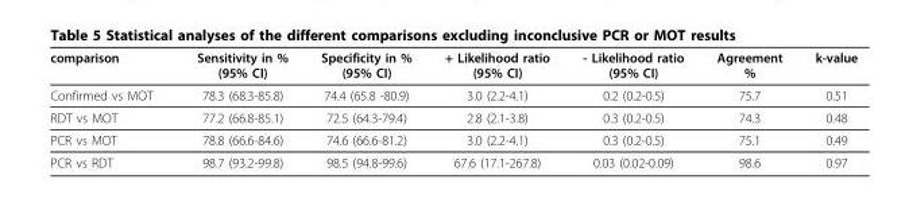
<table><thead><tr><td>comparison</td><td>Sensitivity in % (95% CI)</td><td>Specificity in % (95% CI)</td><td>+ Likelihood ratio (95% CI)</td><td>- Likelihood ratio (95% CI)</td><td>Agreement %</td><td>k-value</td></tr></thead><tbody><tr><td>Confirmed vs MOT</td><td>78.3 (68.3-85.8)</td><td>74.4 (65.8 -80.9)</td><td>3.0 (2.2-4.1)</td><td>0.2 (0.2-0.5)</td><td>75.7</td><td>0.51</td></tr><tr><td>RDT vs MOT</td><td>77.2 (66.8-85.1)</td><td>72.5 (64.3-79.4)</td><td>2.8 (2.1-3.8)</td><td>0.3 (0.2-0.5)</td><td>74.3</td><td>0.48</td></tr><tr><td>PCR vs MOT</td><td>78.8 (66.6-84.6)</td><td>74.6 (66.6-81.2)</td><td>3.0 (2.2-4.1)</td><td>0.3 (0.2-0.5)</td><td>75.1</td><td>0.49</td></tr><tr><td>PCR vs RDT</td><td>98.7 (93.2-99.8)</td><td>98.5 (94.8-99.6)</td><td>67.6 (17.1-267.8)</td><td>0.03 (0.02-0.09)</td><td>98.6</td><td>0.97</td></tr></tbody></table>